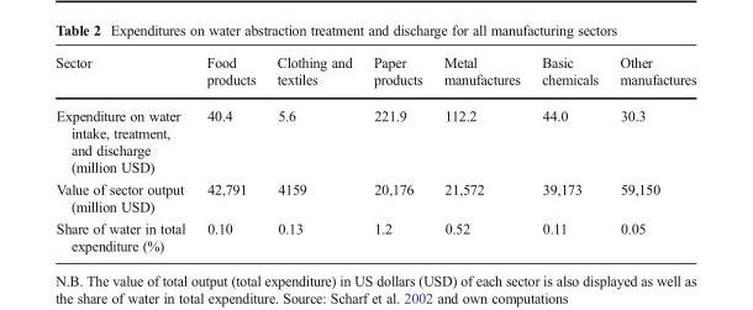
<table><thead><tr><td>Sector</td><td>Food products</td><td>Clothing and textiles</td><td>Paper products</td><td>Metal manufactures</td><td>Basic chemicals</td><td>Other manufactures</td></tr></thead><tbody><tr><td>Expenditure on water intake, treatment, and discharge (million USD)</td><td>40.4</td><td>5.6</td><td>221.9</td><td>112.2</td><td>44.0</td><td>30.3</td></tr><tr><td>Value of sector output (million USD)</td><td>42,791</td><td>4159</td><td>20,176</td><td>21,572</td><td>39,173</td><td>59,150</td></tr><tr><td>Share of water in total expenditure (%)</td><td>0.10</td><td>0.13</td><td>1.2</td><td>0.52</td><td>0.11</td><td>0.05</td></tr></tbody></table>